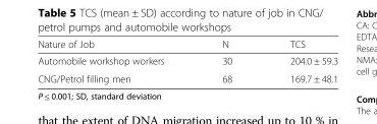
<table><thead><tr><td>Nature of Job</td><td>N</td><td>TCS</td></tr></thead><tbody><tr><td>Automobile workshop workers</td><td>30</td><td>204.0 ± 59.3</td></tr><tr><td>CNG/Petrol filling men</td><td>68</td><td>169.7 ± 48.1</td></tr></tbody></table>